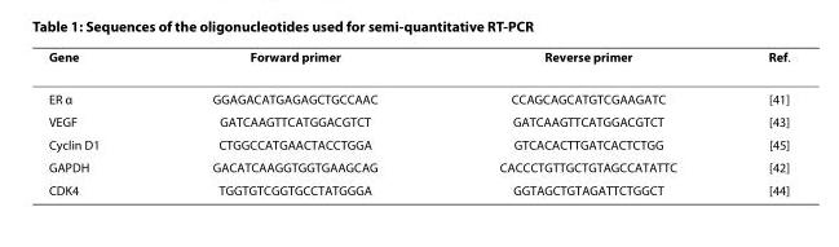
<table><thead><tr><td>Gene</td><td>Forward primer</td><td>Reverse primer</td><td>Ref.</td></tr></thead><tbody><tr><td>ER α</td><td>GGAGACATGAGAGCTGCCAAC</td><td>CCAGCAGCATGTCGAAGATC</td><td>[41]</td></tr><tr><td>VEGF</td><td>GATCAAGTTCATGGACGTCT</td><td>GATCAAGTTCATGGACGTCT</td><td>[43]</td></tr><tr><td>Cyclin D1</td><td>CTGGCCATGAACTACCTGGA</td><td>GTCACACTTGATCACTCTGG</td><td>[45]</td></tr><tr><td>GAPDH</td><td>GACATCAAGGTGGTGAAGCAG</td><td>CACCCTGTTGCTGTAGCCATATTC</td><td>[42]</td></tr><tr><td>CDK4</td><td>TGGTGTCGGTGCCTATGGGA</td><td>GGTAGCTGTAGATTCTGGCT</td><td>[44]</td></tr></tbody></table>